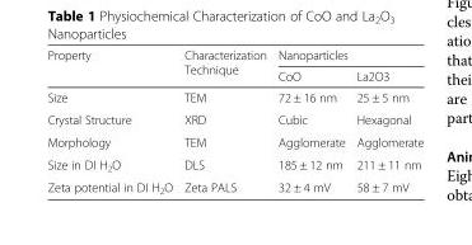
<table><thead><tr><td rowspan="2">Property</td><td rowspan="2">Characterization Technique</td><td colspan="2">Nanoparticles</td></tr><tr><td>CoO</td><td>La2O3</td></tr></thead><tbody><tr><td>Size</td><td>TEM</td><td>72 ± 16 nm</td><td>25 ± 5 nm</td></tr><tr><td>Crystal Structure</td><td>XRD</td><td>Cubic</td><td>Hexagonal</td></tr><tr><td>Morphology</td><td>TEM</td><td>Agglomerate</td><td>Agglomerate</td></tr><tr><td>Size in DI H<sub>2</sub>O</td><td>DLS</td><td>185 ± 12 nm</td><td>211 ± 11 nm</td></tr><tr><td>Zeta potential in DI H<sub>2</sub>O</td><td>Zeta PALS</td><td>32 ± 4 mV</td><td>58 ± 7 mV</td></tr></tbody></table>